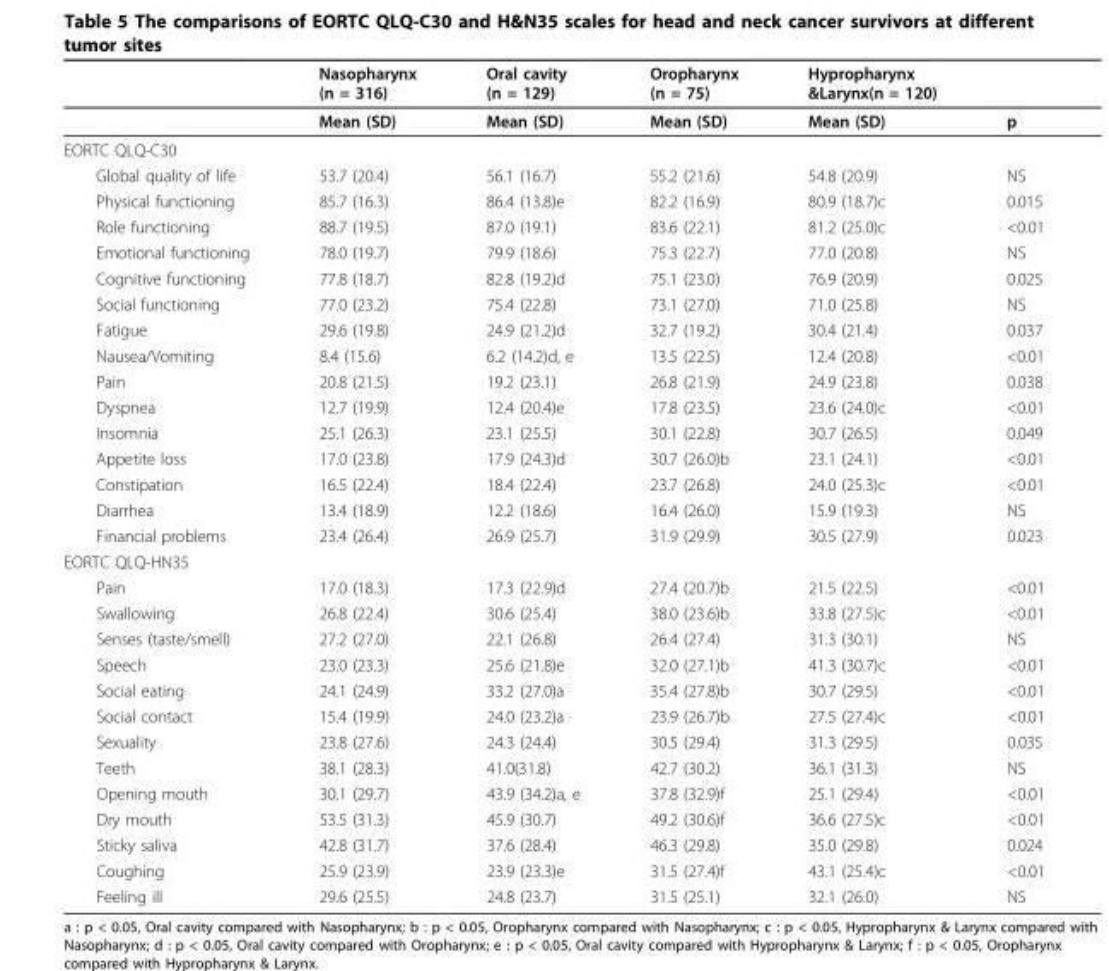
<table><thead><tr><td></td><td>Nasopharynx (n = 316)</td><td>Oral cavity (n = 129)</td><td>Oropharynx (n = 75)</td><td>Hypropharynx &amp;Larynx(n = 120)</td><td></td></tr></thead><tbody><tr><td></td><td>Mean (SD)</td><td>Mean (SD)</td><td>Mean (SD)</td><td>Mean (SD)</td><td>p</td></tr><tr><td colspan="6">EORTC QLQ-C30</td></tr><tr><td>Global quality of life</td><td>53.7 (20.4)</td><td>56.1 (16.7)</td><td>55.2 (21.6)</td><td>54.8 (20.9)</td><td>NS</td></tr><tr><td>Physical functioning</td><td>85.7 (16.3)</td><td>86.4 (13.8)e</td><td>82.2 (16.9)</td><td>80.9 (18.7)c</td><td>0.015</td></tr><tr><td>Role functioning</td><td>88.7 (19.5)</td><td>87.0 (19.1)</td><td>83.6 (22.1)</td><td>81.2 (25.0)c</td><td>&lt;0.01</td></tr><tr><td>Emotional functioning</td><td>78.0 (19.7)</td><td>79.9 (18.6)</td><td>75.3 (22.7)</td><td>77.0 (20.8)</td><td>NS</td></tr><tr><td>Cognitive functioning</td><td>77.8 (18.7)</td><td>82.8 (19.2)d</td><td>75.1 (23.0)</td><td>76.9 (20.9)</td><td>0.025</td></tr><tr><td>Social functioning</td><td>77.0 (23.2)</td><td>75.4 (22.8)</td><td>73.1 (27.0)</td><td>71.0 (25.8)</td><td>NS</td></tr><tr><td>Fatigue</td><td>29.6 (19.8)</td><td>24.9 (21.2)d</td><td>32.7 (19.2)</td><td>30.4 (21.4)</td><td>0.037</td></tr><tr><td>Nausea/Vomiting</td><td>8.4 (15.6)</td><td>6.2 (14.2)d, e</td><td>13.5 (22.5)</td><td>12.4 (20.8)</td><td>&lt;0.01</td></tr><tr><td>Pain</td><td>20.8 (21.5)</td><td>19.2 (23.1)</td><td>26.8 (21.9)</td><td>24.9 (23.8)</td><td>0.038</td></tr><tr><td>Dyspnea</td><td>12.7 (19.9)</td><td>12.4 (20.4)e</td><td>17.8 (23.5)</td><td>23.6 (24.0)c</td><td>&lt;0.01</td></tr><tr><td>Insomnia</td><td>25.1 (26.3)</td><td>23.1 (25.5)</td><td>30.1 (22.8)</td><td>30.7 (26.5)</td><td>0.049</td></tr><tr><td>Appetite loss</td><td>17.0 (23.8)</td><td>17.9 (24.3)d</td><td>30.7 (26.0)b</td><td>23.1 (24.1)</td><td>&lt;0.01</td></tr><tr><td>Constipation</td><td>16.5 (22.4)</td><td>18.4 (22.4)</td><td>23.7 (26.8)</td><td>24.0 (25.3)c</td><td>&lt;0.01</td></tr><tr><td>Diarrhea</td><td>13.4 (18.9)</td><td>12.2 (18.6)</td><td>16.4 (26.0)</td><td>15.9 (19.3)</td><td>NS</td></tr><tr><td>Financial problems</td><td>23.4 (26.4)</td><td>26.9 (25.7)</td><td>31.9 (29.9)</td><td>30.5 (27.9)</td><td>0.023</td></tr><tr><td colspan="6">EORTC QLQ-HN35</td></tr><tr><td>Pain</td><td>17.0 (18.3)</td><td>17.3 (22.9)d</td><td>27.4 (20.7)b</td><td>21.5 (22.5)</td><td>&lt;0.01</td></tr><tr><td>Swallowing</td><td>26.8 (22.4)</td><td>30.6 (25.4)</td><td>38.0 (23.6)b</td><td>33.8 (27.5)c</td><td>&lt;0.01</td></tr><tr><td>Senses (taste/smell)</td><td>27.2 (27.0)</td><td>22.1 (26.8)</td><td>26.4 (27.4)</td><td>31.3 (30.1)</td><td>NS</td></tr><tr><td>Speech</td><td>23.0 (23.3)</td><td>25.6 (21.8)e</td><td>32.0 (27.1)b</td><td>41.3 (30.7)c</td><td>&lt;0.01</td></tr><tr><td>Social eating</td><td>24.1 (24.9)</td><td>33.2 (27.0)a</td><td>35.4 (27.8)b</td><td>30.7 (29.5)</td><td>&lt;0.01</td></tr><tr><td>Social contact</td><td>15.4 (19.9)</td><td>24.0 (23.2)a</td><td>23.9 (26.7)b</td><td>27.5 (27.4)c</td><td>&lt;0.01</td></tr><tr><td>Sexuality</td><td>23.8 (27.6)</td><td>24.3 (24.4)</td><td>30.5 (29.4)</td><td>31.3 (29.5)</td><td>0.035</td></tr><tr><td>Teeth</td><td>38.1 (28.3)</td><td>41.0(31.8)</td><td>42.7 (30.2)</td><td>36.1 (31.3)</td><td>NS</td></tr><tr><td>Opening mouth</td><td>30.1 (29.7)</td><td>43.9 (34.2)a, e</td><td>37.8 (32.9)f</td><td>25.1 (29.4)</td><td>&lt;0.01</td></tr><tr><td>Dry mouth</td><td>53.5 (31.3)</td><td>45.9 (30.7)</td><td>49.2 (30.6)f</td><td>36.6 (27.5)c</td><td>&lt;0.01</td></tr><tr><td>Sticky saliva</td><td>42.8 (31.7)</td><td>37.6 (28.4)</td><td>46.3 (29.8)</td><td>35.0 (29.8)</td><td>0.024</td></tr><tr><td>Coughing</td><td>25.9 (23.9)</td><td>23.9 (23.3)e</td><td>31.5 (27.4)f</td><td>43.1 (25.4)c</td><td>&lt;0.01</td></tr><tr><td>Feeling ill</td><td>29.6 (25.5)</td><td>24.8 (23.7)</td><td>31.5 (25.1)</td><td>32.1 (26.0)</td><td>NS</td></tr></tbody></table>